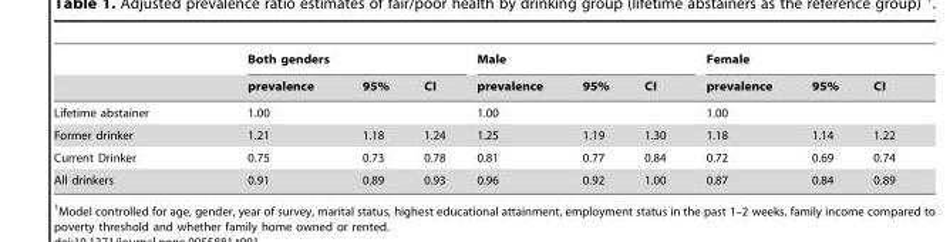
<table><thead><tr><td rowspan="2"></td><td colspan="3">Both genders</td><td colspan="3">Male</td><td colspan="3">Female</td></tr><tr><td>prevalence</td><td>95%</td><td>CI</td><td>prevalence</td><td>95%</td><td>CI</td><td>prevalence</td><td>95%</td><td>CI</td></tr></thead><tbody><tr><td>Lifetime abstainer</td><td>1.00</td><td></td><td></td><td>1.00</td><td></td><td></td><td>1.00</td><td></td><td></td></tr><tr><td>Former drinker</td><td>1.21</td><td>1.18</td><td>1.24</td><td>1.25</td><td>1.19</td><td>1.30</td><td>1.18</td><td>1.14</td><td>1.22</td></tr><tr><td>Current Drinker</td><td>0.75</td><td>0.73</td><td>0.78</td><td>0.81</td><td>0.77</td><td>0.84</td><td>0.72</td><td>0.69</td><td>0.74</td></tr><tr><td>All drinkers</td><td>0.91</td><td>0.89</td><td>0.93</td><td>0.96</td><td>0.92</td><td>1.00</td><td>0.87</td><td>0.84</td><td>0.89</td></tr></tbody></table>